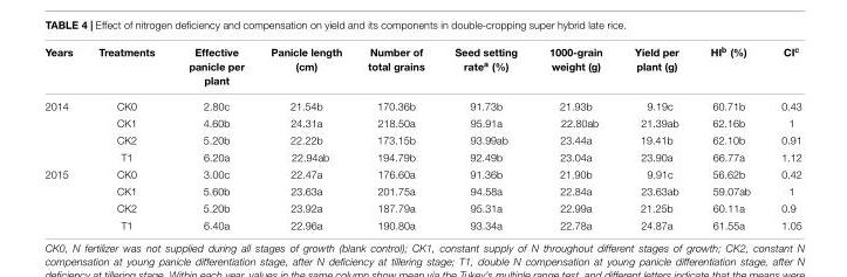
<table><thead><tr><td>Years</td><td>Treatments</td><td>Effective panicle per plant</td><td>Panicle length (cm)</td><td>Number of total grains</td><td>Seed setting rate<sup>a</sup> (%)</td><td>1000-grain weight (g)</td><td>Yield per plant (g)</td><td>HI<sup>b</sup> (%)</td><td>CI<sup>c</sup></td></tr></thead><tbody><tr><td rowspan="4">2014</td><td>CK0</td><td>2.80c</td><td>21.54b</td><td>170.36b</td><td>91.73b</td><td>21.93b</td><td>9.19c</td><td>60.71b</td><td>0.43</td></tr><tr><td>CK1</td><td>4.60b</td><td>24.31a</td><td>218.50a</td><td>95.91a</td><td>22.80ab</td><td>21.39ab</td><td>62.16b</td><td>1</td></tr><tr><td>CK2</td><td>5.20b</td><td>22.22b</td><td>173.15b</td><td>93.99ab</td><td>23.44a</td><td>19.41b</td><td>62.10b</td><td>0.91</td></tr><tr><td>T1</td><td>6.20a</td><td>22.94ab</td><td>194.79b</td><td>92.49b</td><td>23.04a</td><td>23.90a</td><td>66.77a</td><td>1.12</td></tr><tr><td rowspan="4">2015</td><td>CK0</td><td>3.00c</td><td>22.47a</td><td>176.60a</td><td>91.36b</td><td>21.90b</td><td>9.91c</td><td>56.62b</td><td>0.42</td></tr><tr><td>CK1</td><td>5.60b</td><td>23.63a</td><td>201.75a</td><td>94.58a</td><td>22.84a</td><td>23.63ab</td><td>59.07ab</td><td>1</td></tr><tr><td>CK2</td><td>5.20b</td><td>23.92a</td><td>187.79a</td><td>95.31a</td><td>22.99a</td><td>21.25b</td><td>60.11a</td><td>0.9</td></tr><tr><td>T1</td><td>6.40a</td><td>22.96a</td><td>190.80a</td><td>93.34a</td><td>22.78a</td><td>24.87a</td><td>61.55a</td><td>1.05</td></tr></tbody></table>